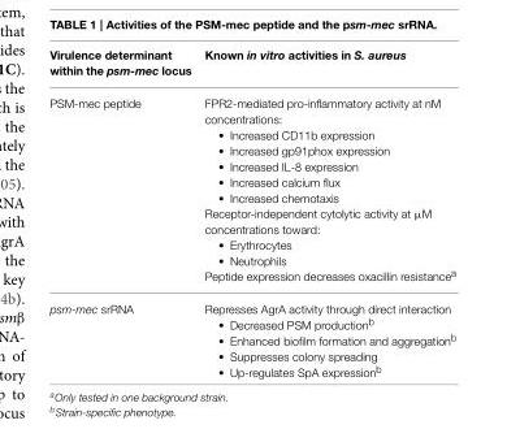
<table><thead><tr><td>Virulence determinant within the psm-mec locus</td><td>Known in vitro activities in S. aureus</td></tr></thead><tbody><tr><td rowspan="3">PSM-mec peptide</td><td>FPR2-mediated pro-inflammatory activity at nM concentrations: • Increased CD11b expression • Increased gp91phox expression • Increased IL-8 expression • Increased calcium flux • Increased chemotaxis</td></tr><tr><td>Receptor-independent cytolytic activity at µM concentrations toward: • Erythrocytes • Neutrophils</td></tr><tr><td>Peptide expression decreases oxacillin resistance<sup>a</sup></td></tr><tr><td>psm-mec srRNA</td><td>Represses AgrA activity through direct interaction • Decreased PSM production<sup>b</sup> • Enhanced biofilm formation and aggregation<sup>b</sup> • Suppresses colony spreading • Up-regulates SpA expression<sup>b</sup></td></tr></tbody></table>